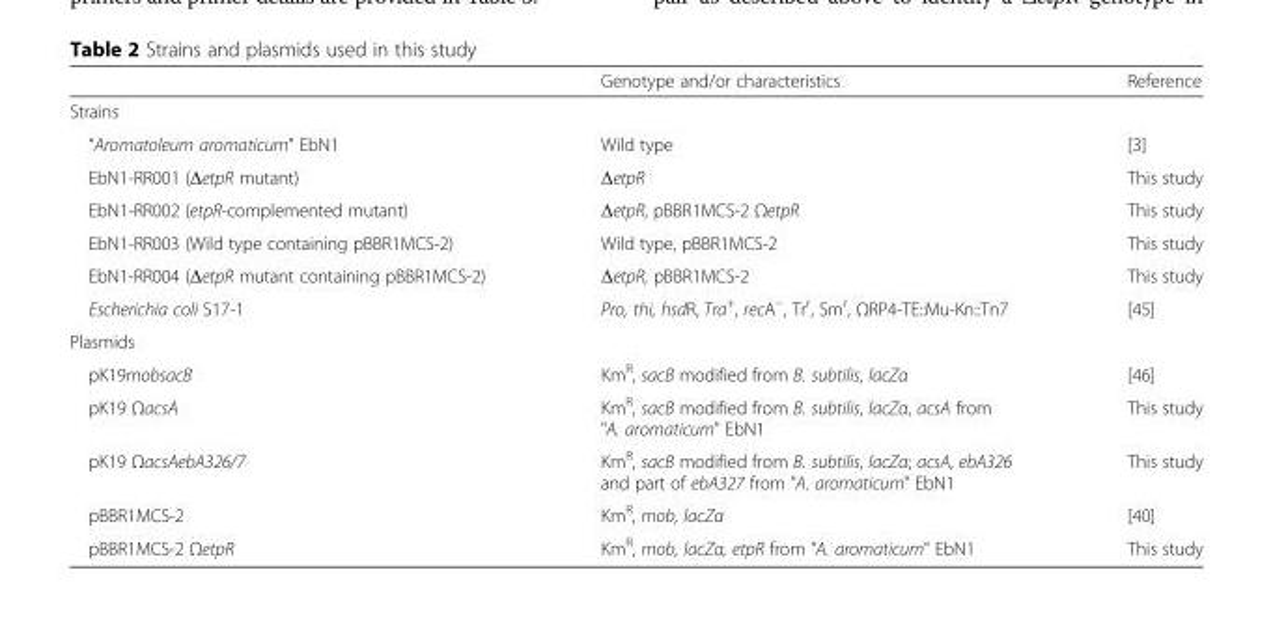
<table><thead><tr><td></td><td>Genotype and/or characteristics</td><td>Reference</td></tr></thead><tbody><tr><td colspan="3">Strains</td></tr><tr><td>“Aromatoleum aromaticum” EbN1</td><td>Wild type</td><td>[3]</td></tr><tr><td>EbN1-RR001 (ΔetpR mutant)</td><td>ΔetpR</td><td>This study</td></tr><tr><td>EbN1-RR002 (etpR-complemented mutant)</td><td>ΔetpR, pBBR1MCS-2 ΩetpR</td><td>This study</td></tr><tr><td>EbN1-RR003 (Wild type containing pBBR1MCS-2)</td><td>Wild type, pBBR1MCS-2</td><td>This study</td></tr><tr><td>EbN1-RR004 (ΔetpR mutant containing pBBR1MCS-2)</td><td>ΔetpR, pBBR1MCS-2</td><td>This study</td></tr><tr><td>Escherichia coli S17-1</td><td>Pro, thi, hsdR, Tra<sup>+</sup>, recA<sup>−</sup>, Tr<sup>r</sup>, Sm<sup>r</sup>, ΩRP4-TE::Mu-Kn::Tn7</td><td>[45]</td></tr><tr><td colspan="3">Plasmids</td></tr><tr><td>pK19mobsacB</td><td>Km<sup>R</sup>, sacB modified from B. subtilis, lacZα</td><td>[46]</td></tr><tr><td>pK19 ΩacsA</td><td>Km<sup>R</sup>, sacB modified from B. subtilis, lacZα, acsA from &quot;A. aromaticum&quot; EbN1</td><td>This study</td></tr><tr><td>pK19 ΩacsAebA326/7</td><td>Km<sup>R</sup>, sacB modified from B. subtilis, lacZα; acsA, ebA326 and part of ebA327 from &quot;A. aromaticum&quot; EbN1</td><td>This study</td></tr><tr><td>pBBR1MCS-2</td><td>Km<sup>R</sup>, mob, lacZα</td><td>[40]</td></tr><tr><td>pBBR1MCS-2 ΩetpR</td><td>Km<sup>R</sup>, mob, lacZα, etpR from &quot;A. aromaticum&quot; EbN1</td><td>This study</td></tr></tbody></table>